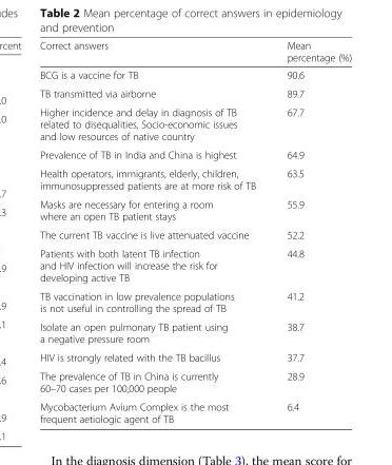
<table><thead><tr><td>Correct answers</td><td>Mean percentage (%)</td></tr></thead><tbody><tr><td>BCG is a vaccine for TB</td><td>90.6</td></tr><tr><td>TB transmitted via airborne</td><td>89.7</td></tr><tr><td>Higher incidence and delay in diagnosis of TB related to disequalities, Socio-economic issues and low resources of native country</td><td>67.7</td></tr><tr><td>Prevalence of TB in India and China is highest</td><td>64.9</td></tr><tr><td>Health operators, immigrants, elderly, children, immunosuppressed patients are at more risk of TB</td><td>63.5</td></tr><tr><td>Masks are necessary for entering a room where an open TB patient stays</td><td>55.9</td></tr><tr><td>The current TB vaccine is live attenuated vaccine</td><td>52.2</td></tr><tr><td>Patients with both latent TB infection and HIV infection will increase the risk for developing active TB</td><td>44.8</td></tr><tr><td>TB vaccination in low prevalence populations is not useful in controlling the spread of TB</td><td>41.2</td></tr><tr><td>Isolate an open pulmonary TB patient using a negative pressure room</td><td>38.7</td></tr><tr><td>HIV is strongly related with the TB bacillus</td><td>37.7</td></tr><tr><td>The prevalence of TB in China is currently 60–70 cases per 100,000 people</td><td>28.9</td></tr><tr><td>Mycobacterium Avium Complex is the most frequent aetiologic agent of TB</td><td>6.4</td></tr></tbody></table>